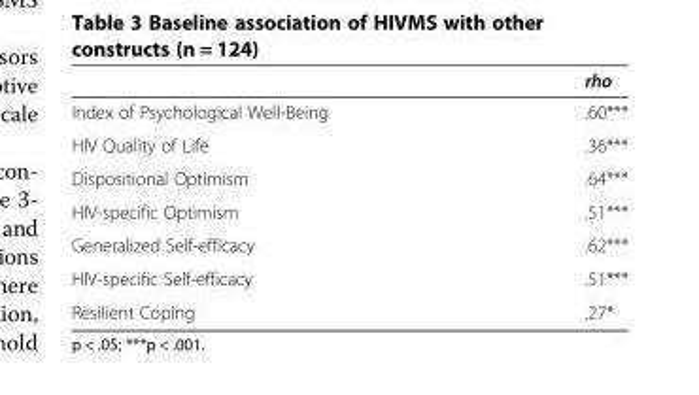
<table><thead><tr><td></td><td>rho</td></tr></thead><tbody><tr><td>Index of Psychological Well-Being</td><td>.60***</td></tr><tr><td>HIV Quality of Life</td><td>.36***</td></tr><tr><td>Dispositional Optimism</td><td>.64***</td></tr><tr><td>HIV-specific Optimism</td><td>.51***</td></tr><tr><td>Generalized Self-efficacy</td><td>.62***</td></tr><tr><td>HIV-specific Self-efficacy</td><td>.51***</td></tr><tr><td>Resilient Coping</td><td>.27*</td></tr></tbody></table>